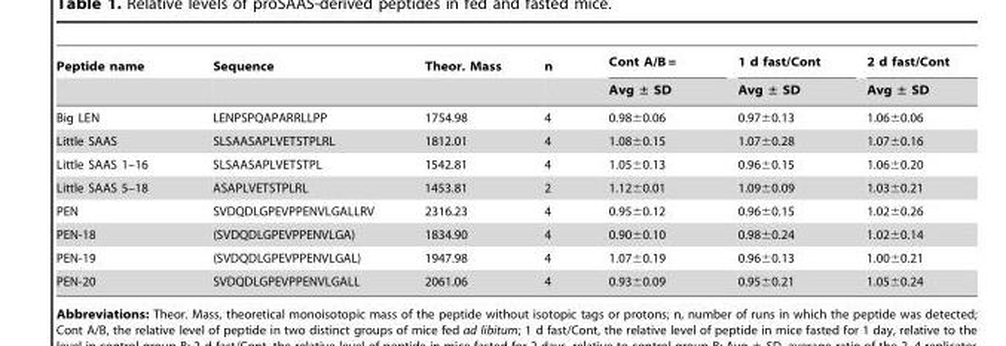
<table><thead><tr><td rowspan="2">Peptide name</td><td rowspan="2">Sequence</td><td rowspan="2">Theor. Mass</td><td rowspan="2">n</td><td rowspan="2">Cont A/B = Avg ± SD</td><td rowspan="2">1 d fast/Cont Avg ± SD</td><td rowspan="2">2 d fast/Cont Avg ± SD</td></tr><tr></tr></thead><tbody><tr><td>Big LEN</td><td>LENPSPQAPARRLLPP</td><td>1754.98</td><td>4</td><td>0.98±0.06</td><td>0.97±0.13</td><td>1.06±0.06</td></tr><tr><td>Little SAAS</td><td>SLSAASAPLVETSTPLRL</td><td>1812.01</td><td>4</td><td>1.08±0.15</td><td>1.07±0.28</td><td>1.07±0.16</td></tr><tr><td>Little SAAS 1–16</td><td>SLSAASAPLVETSTPL</td><td>1542.81</td><td>4</td><td>1.05±0.13</td><td>0.96±0.15</td><td>1.06±0.20</td></tr><tr><td>Little SAAS 5–18</td><td>ASAPLVETSTPLRL</td><td>1453.81</td><td>2</td><td>1.12±0.01</td><td>1.09±0.09</td><td>1.03±0.21</td></tr><tr><td>PEN</td><td>SVDQDLGPEVPPENVLGALLRV</td><td>2316.23</td><td>4</td><td>0.95±0.12</td><td>0.96±0.15</td><td>1.02±0.26</td></tr><tr><td>PEN-18</td><td>(SVDQDLGPEVPPENVLGA)</td><td>1834.90</td><td>4</td><td>0.90±0.10</td><td>0.98±0.24</td><td>1.02±0.14</td></tr><tr><td>PEN-19</td><td>(SVDQDLGPEVPPENVLGAL)</td><td>1947.98</td><td>4</td><td>1.07±0.19</td><td>0.96±0.13</td><td>1.00±0.21</td></tr><tr><td>PEN-20</td><td>SVDQDLGPEVPPENVLGALL</td><td>2061.06</td><td>4</td><td>0.93±0.09</td><td>0.95±0.21</td><td>1.05±0.24</td></tr></tbody></table>